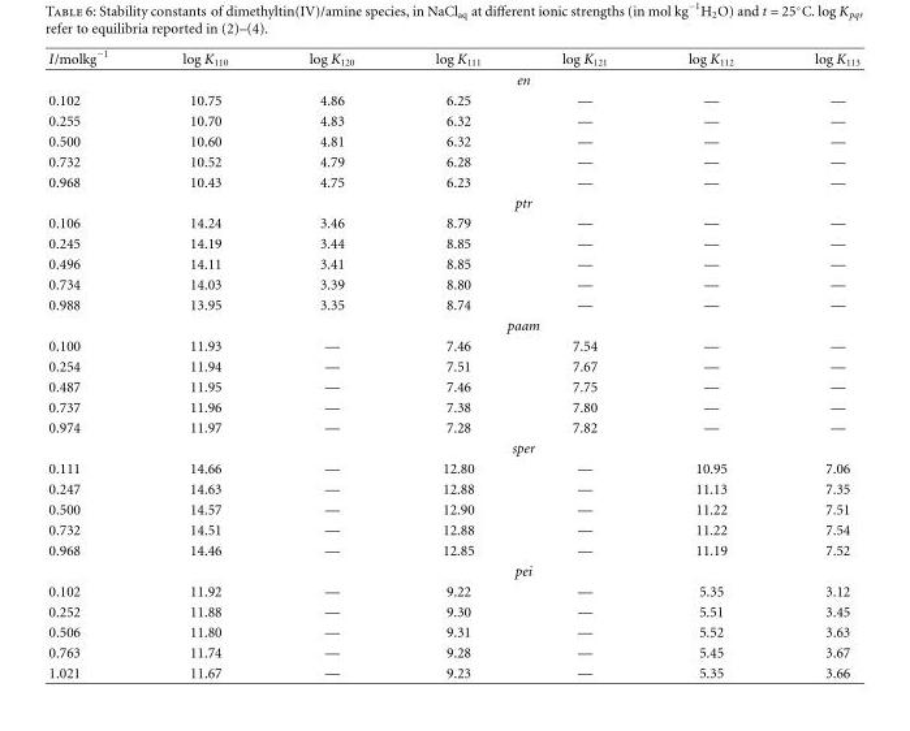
<table><thead><tr><td>I/molkg<sup>−1</sup></td><td>log K<sub>110</sub></td><td>log K<sub>120</sub></td><td>log K<sub>111</sub></td><td>log K<sub>121</sub></td><td>log K<sub>112</sub></td><td>log K<sub>113</sub></td></tr></thead><tbody><tr><td></td><td colspan="6">en</td></tr><tr><td>0.102</td><td>10.75</td><td>4.86</td><td>6.25</td><td>—</td><td>—</td><td>—</td></tr><tr><td>0.255</td><td>10.70</td><td>4.83</td><td>6.32</td><td>—</td><td>—</td><td>—</td></tr><tr><td>0.500</td><td>10.60</td><td>4.81</td><td>6.32</td><td>—</td><td>—</td><td>—</td></tr><tr><td>0.732</td><td>10.52</td><td>4.79</td><td>6.28</td><td>—</td><td>—</td><td>—</td></tr><tr><td rowspan="2">0.968</td><td>10.43</td><td>4.75</td><td>6.23</td><td>—</td><td>—</td><td>—</td></tr><tr><td colspan="6">ptr</td></tr><tr><td>0.106</td><td>14.24</td><td>3.46</td><td>8.79</td><td>—</td><td>—</td><td>—</td></tr><tr><td>0.245</td><td>14.19</td><td>3.44</td><td>8.85</td><td>—</td><td>—</td><td>—</td></tr><tr><td>0.496</td><td>14.11</td><td>3.41</td><td>8.85</td><td>—</td><td>—</td><td>—</td></tr><tr><td>0.734</td><td>14.03</td><td>3.39</td><td>8.80</td><td>—</td><td>—</td><td>—</td></tr><tr><td rowspan="2">0.988</td><td>13.95</td><td>3.35</td><td>8.74</td><td>—</td><td>—</td><td>—</td></tr><tr><td colspan="6">paam</td></tr><tr><td>0.100</td><td>11.93</td><td>—</td><td>7.46</td><td>7.54</td><td>—</td><td>—</td></tr><tr><td>0.254</td><td>11.94</td><td>—</td><td>7.51</td><td>7.67</td><td>—</td><td>—</td></tr><tr><td>0.487</td><td>11.95</td><td>—</td><td>7.46</td><td>7.75</td><td>—</td><td>—</td></tr><tr><td>0.737</td><td>11.96</td><td>—</td><td>7.38</td><td>7.80</td><td>—</td><td>—</td></tr><tr><td rowspan="2">0.974</td><td>11.97</td><td>—</td><td>7.28</td><td>7.82</td><td>—</td><td>—</td></tr><tr><td colspan="6">sper</td></tr><tr><td>0.111</td><td>14.66</td><td>—</td><td>12.80</td><td>—</td><td>10.95</td><td>7.06</td></tr><tr><td>0.247</td><td>14.63</td><td>—</td><td>12.88</td><td>—</td><td>11.13</td><td>7.35</td></tr><tr><td>0.500</td><td>14.57</td><td>—</td><td>12.90</td><td>—</td><td>11.22</td><td>7.51</td></tr><tr><td>0.732</td><td>14.51</td><td>—</td><td>12.88</td><td>—</td><td>11.22</td><td>7.54</td></tr><tr><td rowspan="2">0.968</td><td>14.46</td><td>—</td><td>12.85</td><td>—</td><td>11.19</td><td>7.52</td></tr><tr><td colspan="6">pei</td></tr><tr><td>0.102</td><td>11.92</td><td>—</td><td>9.22</td><td>—</td><td>5.35</td><td>3.12</td></tr><tr><td>0.252</td><td>11.88</td><td>—</td><td>9.30</td><td>—</td><td>5.51</td><td>3.45</td></tr><tr><td>0.506</td><td>11.80</td><td>—</td><td>9.31</td><td>—</td><td>5.52</td><td>3.63</td></tr><tr><td>0.763</td><td>11.74</td><td>—</td><td>9.28</td><td>—</td><td>5.45</td><td>3.67</td></tr><tr><td>1.021</td><td>11.67</td><td>—</td><td>9.23</td><td>—</td><td>5.35</td><td>3.66</td></tr></tbody></table>